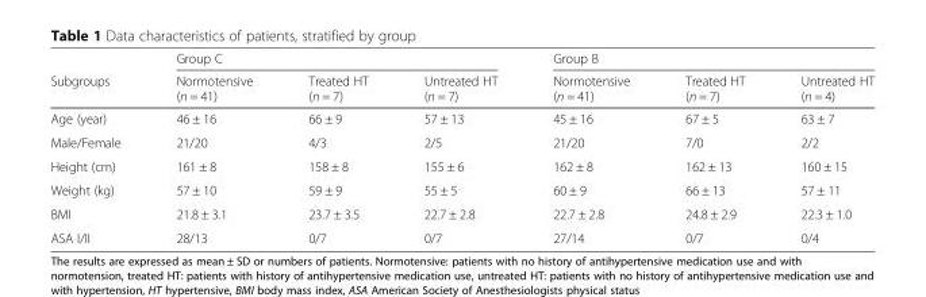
<table><thead><tr><td rowspan="2">Subgroups</td><td colspan="3">Group C</td><td colspan="3">Group B</td></tr><tr><td>Normotensive (n = 41)</td><td>Treated HT (n = 7)</td><td>Untreated HT (n = 7)</td><td>Normotensive (n = 41)</td><td>Treated HT (n = 7)</td><td>Untreated HT (n = 4)</td></tr></thead><tbody><tr><td>Age (year)</td><td>46 ± 16</td><td>66 ± 9</td><td>57 ± 13</td><td>45 ± 16</td><td>67 ± 5</td><td>63 ± 7</td></tr><tr><td>Male/Female</td><td>21/20</td><td>4/3</td><td>2/5</td><td>21/20</td><td>7/0</td><td>2/2</td></tr><tr><td>Height (cm)</td><td>161 ± 8</td><td>158 ± 8</td><td>155 ± 6</td><td>162 ± 8</td><td>162 ± 13</td><td>160 ± 15</td></tr><tr><td>Weight (kg)</td><td>57 ± 10</td><td>59 ± 9</td><td>55 ± 5</td><td>60 ± 9</td><td>66 ± 13</td><td>57 ± 11</td></tr><tr><td>BMI</td><td>21.8 ± 3.1</td><td>23.7 ± 3.5</td><td>22.7 ± 2.8</td><td>22.7 ± 2.8</td><td>24.8 ± 2.9</td><td>22.3 ± 1.0</td></tr><tr><td>ASA I/II</td><td>28/13</td><td>0/7</td><td>0/7</td><td>27/14</td><td>0/7</td><td>0/4</td></tr></tbody></table>